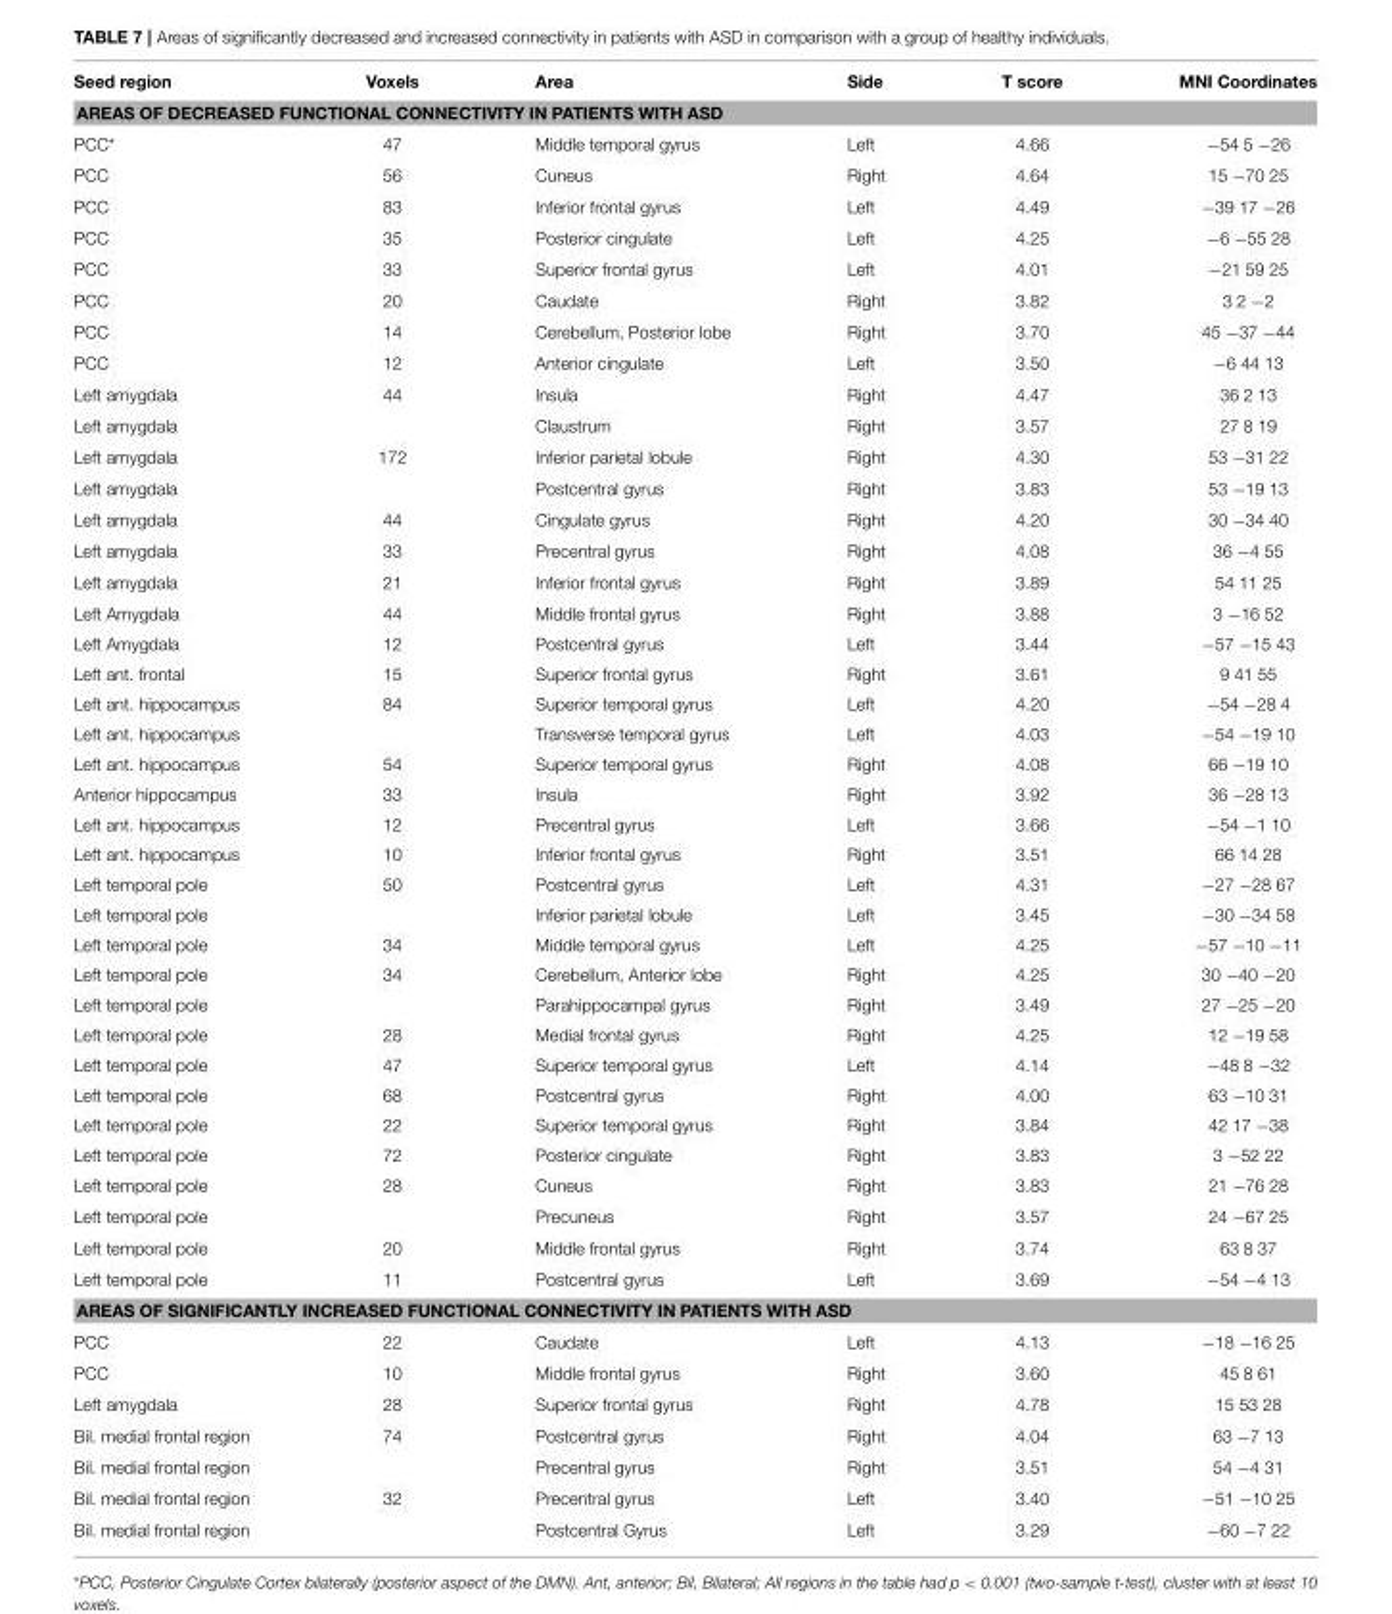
<table><thead><tr><td>Seed region</td><td>Voxels</td><td>Area</td><td>Side</td><td>T score</td><td>MNI Coordinates</td></tr></thead><tbody><tr><td colspan="6">AREAS OF DECREASED FUNCTIONAL CONNECTIVITY IN PATIENTS WITH ASD</td></tr><tr><td>PCC*</td><td>47</td><td>Middle temporal gyrus</td><td>Left</td><td>4.66</td><td>−54 5 −26</td></tr><tr><td>PCC</td><td>56</td><td>Cuneus</td><td>Right</td><td>4.64</td><td>15 −70 25</td></tr><tr><td>PCC</td><td>83</td><td>Inferior frontal gyrus</td><td>Left</td><td>4.49</td><td>−39 17 −26</td></tr><tr><td>PCC</td><td>35</td><td>Posterior cingulate</td><td>Left</td><td>4.25</td><td>−6 −55 28</td></tr><tr><td>PCC</td><td>33</td><td>Superior frontal gyrus</td><td>Left</td><td>4.01</td><td>−21 59 25</td></tr><tr><td>PCC</td><td>20</td><td>Caudate</td><td>Right</td><td>3.82</td><td>3 2 −2</td></tr><tr><td>PCC</td><td>14</td><td>Cerebellum, Posterior lobe</td><td>Right</td><td>3.70</td><td>45 −37 −44</td></tr><tr><td>PCC</td><td>12</td><td>Anterior cingulate</td><td>Left</td><td>3.50</td><td>−6 44 13</td></tr><tr><td>Left amygdala</td><td>44</td><td>Insula</td><td>Right</td><td>4.47</td><td>36 2 13</td></tr><tr><td>Left amygdala</td><td></td><td>Claustrum</td><td>Right</td><td>3.57</td><td>27 8 19</td></tr><tr><td>Left amygdala</td><td>172</td><td>Inferior parietal lobule</td><td>Right</td><td>4.30</td><td>53 −31 22</td></tr><tr><td>Left amygdala</td><td></td><td>Postcentral gyrus</td><td>Right</td><td>3.83</td><td>53 −19 13</td></tr><tr><td>Left amygdala</td><td>44</td><td>Cingulate gyrus</td><td>Right</td><td>4.20</td><td>30 −34 40</td></tr><tr><td>Left amygdala</td><td>33</td><td>Precentral gyrus</td><td>Right</td><td>4.08</td><td>36 −4 55</td></tr><tr><td>Left amygdala</td><td>21</td><td>Inferior frontal gyrus</td><td>Right</td><td>3.89</td><td>54 11 25</td></tr><tr><td>Left Amygdala</td><td>44</td><td>Middle frontal gyrus</td><td>Right</td><td>3.88</td><td>3 −16 52</td></tr><tr><td>Left Amygdala</td><td>12</td><td>Postcentral gyrus</td><td>Left</td><td>3.44</td><td>−57 −15 43</td></tr><tr><td>Left ant. frontal</td><td>15</td><td>Superior frontal gyrus</td><td>Right</td><td>3.61</td><td>9 41 55</td></tr><tr><td>Left ant. hippocampus</td><td>84</td><td>Superior temporal gyrus</td><td>Left</td><td>4.20</td><td>−54 −28 4</td></tr><tr><td>Left ant. hippocampus</td><td></td><td>Transverse temporal gyrus</td><td>Left</td><td>4.03</td><td>−54 −19 10</td></tr><tr><td>Left ant. hippocampus</td><td>54</td><td>Superior temporal gyrus</td><td>Right</td><td>4.08</td><td>66 −19 10</td></tr><tr><td>Anterior hippocampus</td><td>33</td><td>Insula</td><td>Right</td><td>3.92</td><td>36 −28 13</td></tr><tr><td>Left ant. hippocampus</td><td>12</td><td>Precentral gyrus</td><td>Left</td><td>3.66</td><td>−54 −1 10</td></tr><tr><td>Left ant. hippocampus</td><td>10</td><td>Inferior frontal gyrus</td><td>Right</td><td>3.51</td><td>66 14 28</td></tr><tr><td>Left temporal pole</td><td>50</td><td>Postcentral gyrus</td><td>Left</td><td>4.31</td><td>−27 −28 67</td></tr><tr><td>Left temporal pole</td><td></td><td>Inferior parietal lobule</td><td>Left</td><td>3.45</td><td>−30 −34 58</td></tr><tr><td>Left temporal pole</td><td>34</td><td>Middle temporal gyrus</td><td>Left</td><td>4.25</td><td>−57 −10 −11</td></tr><tr><td>Left temporal pole</td><td>34</td><td>Cerebellum, Anterior lobe</td><td>Right</td><td>4.25</td><td>30 −40 −20</td></tr><tr><td>Left temporal pole</td><td></td><td>Parahippocampal gyrus</td><td>Right</td><td>3.49</td><td>27 −25 −20</td></tr><tr><td>Left temporal pole</td><td>28</td><td>Medial frontal gyrus</td><td>Right</td><td>4.25</td><td>12 −19 58</td></tr><tr><td>Left temporal pole</td><td>47</td><td>Superior temporal gyrus</td><td>Left</td><td>4.14</td><td>−48 8 −32</td></tr><tr><td>Left temporal pole</td><td>68</td><td>Postcentral gyrus</td><td>Right</td><td>4.00</td><td>63 −10 31</td></tr><tr><td>Left temporal pole</td><td>22</td><td>Superior temporal gyrus</td><td>Right</td><td>3.84</td><td>42 17 −38</td></tr><tr><td>Left temporal pole</td><td>72</td><td>Posterior cingulate</td><td>Right</td><td>3.83</td><td>3 −52 22</td></tr><tr><td>Left temporal pole</td><td>28</td><td>Cuneus</td><td>Right</td><td>3.83</td><td>21 −76 28</td></tr><tr><td>Left temporal pole</td><td></td><td>Precuneus</td><td>Right</td><td>3.57</td><td>24 −67 25</td></tr><tr><td>Left temporal pole</td><td>20</td><td>Middle frontal gyrus</td><td>Right</td><td>3.74</td><td>63 8 37</td></tr><tr><td>Left temporal pole</td><td>11</td><td>Postcentral gyrus</td><td>Left</td><td>3.69</td><td>−54 −4 13</td></tr><tr><td colspan="6">AREAS OF SIGNIFICANTLY INCREASED FUNCTIONAL CONNECTIVITY IN PATIENTS WITH ASD</td></tr><tr><td>PCC</td><td>22</td><td>Caudate</td><td>Left</td><td>4.13</td><td>−18 −16 25</td></tr><tr><td>PCC</td><td>10</td><td>Middle frontal gyrus</td><td>Right</td><td>3.60</td><td>45 8 61</td></tr><tr><td>Left amygdala</td><td>28</td><td>Superior frontal gyrus</td><td>Right</td><td>4.78</td><td>15 53 28</td></tr><tr><td>Bil. medial frontal region</td><td>74</td><td>Postcentral gyrus</td><td>Right</td><td>4.04</td><td>63 −7 13</td></tr><tr><td>Bil. medial frontal region</td><td></td><td>Precentral gyrus</td><td>Right</td><td>3.51</td><td>54 −4 31</td></tr><tr><td>Bil. medial frontal region</td><td>32</td><td>Precentral gyrus</td><td>Left</td><td>3.40</td><td>−51 −10 25</td></tr><tr><td>Bil. medial frontal region</td><td></td><td>Postcentral Gyrus</td><td>Left</td><td>3.29</td><td>−60 −7 22</td></tr></tbody></table>